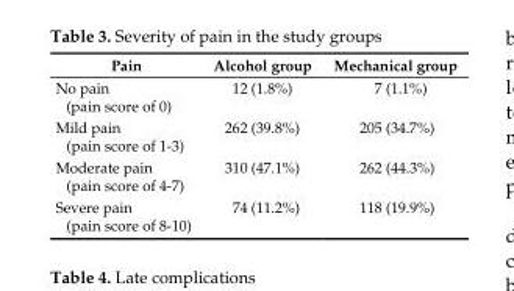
<table><thead><tr><td>Pain</td><td>Alcohol group</td><td>Mechanical group</td></tr></thead><tbody><tr><td>No pain (pain score of 0)</td><td>12 (1.8%)</td><td>7 (1.1%)</td></tr><tr><td>Mild pain (pain score of 1-3)</td><td>262 (39.8%)</td><td>205 (34.7%)</td></tr><tr><td>Moderate pain (pain score of 4-7)</td><td>310 (47.1%)</td><td>262 (44.3%)</td></tr><tr><td>Severe pain (pain score of 8-10)</td><td>74 (11.2%)</td><td>118 (19.9%)</td></tr></tbody></table>